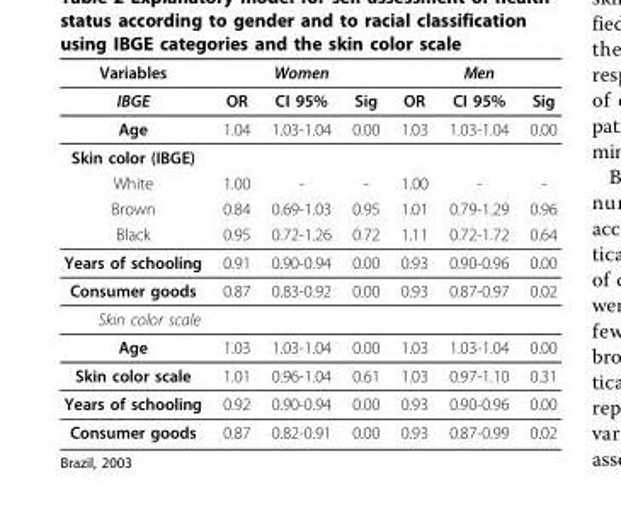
<table><thead><tr><td rowspan="2">Variables IBGE</td><td colspan="3">Women</td><td colspan="3">Men</td></tr><tr><td>OR</td><td>CI 95%</td><td>Sig</td><td>OR</td><td>CI 95%</td><td>Sig</td></tr></thead><tbody><tr><td>Age</td><td>1.04</td><td>1.03-1.04</td><td>0.00</td><td>1.03</td><td>1.03-1.04</td><td>0.00</td></tr><tr><td colspan="7">Skin color (IBGE)</td></tr><tr><td>White</td><td>1.00</td><td>-</td><td>-</td><td>1.00</td><td>-</td><td>-</td></tr><tr><td>Brown</td><td>0.84</td><td>0.69-1.03</td><td>0.95</td><td>1.01</td><td>0.79-1.29</td><td>0.96</td></tr><tr><td>Black</td><td>0.95</td><td>0.72-1.26</td><td>0.72</td><td>1.11</td><td>0.72-1.72</td><td>0.64</td></tr><tr><td>Years of schooling</td><td>0.91</td><td>0.90-0.94</td><td>0.00</td><td>0.93</td><td>0.90-0.96</td><td>0.00</td></tr><tr><td>Consumer goods</td><td>0.87</td><td>0.83-0.92</td><td>0.00</td><td>0.93</td><td>0.87-0.97</td><td>0.02</td></tr><tr><td colspan="7">Skin color scale</td></tr><tr><td>Age</td><td>1.03</td><td>1.03-1.04</td><td>0.00</td><td>1.03</td><td>1.03-1.04</td><td>0.00</td></tr><tr><td>Skin color scale</td><td>1.01</td><td>0.96-1.04</td><td>0.61</td><td>1.03</td><td>0.97-1.10</td><td>0.31</td></tr><tr><td>Years of schooling</td><td>0.92</td><td>0.90-0.94</td><td>0.00</td><td>0.93</td><td>0.90-0.96</td><td>0.00</td></tr><tr><td>Consumer goods</td><td>0.87</td><td>0.82-0.91</td><td>0.00</td><td>0.93</td><td>0.87-0.99</td><td>0.02</td></tr></tbody></table>